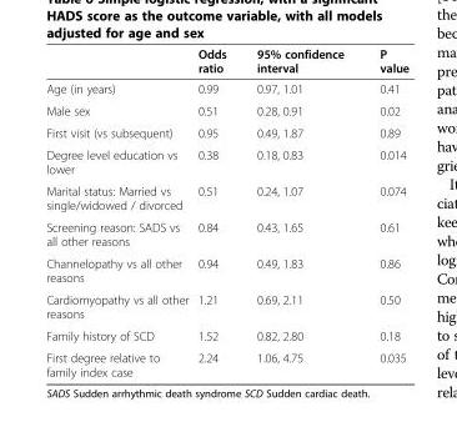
<table><thead><tr><td></td><td>Odds ratio</td><td>95% confidence interval</td><td>P value</td></tr></thead><tbody><tr><td>Age (in years)</td><td>0.99</td><td>0.97, 1.01</td><td>0.41</td></tr><tr><td>Male sex</td><td>0.51</td><td>0.28, 0.91</td><td>0.02</td></tr><tr><td>First visit (vs subsequent)</td><td>0.95</td><td>0.49, 1.87</td><td>0.89</td></tr><tr><td>Degree level education vs lower</td><td>0.38</td><td>0.18, 0.83</td><td>0.014</td></tr><tr><td>Marital status: Married vs single/widowed / divorced</td><td>0.51</td><td>0.24, 1.07</td><td>0.074</td></tr><tr><td>Screening reason: SADS vs all other reasons</td><td>0.84</td><td>0.43, 1.65</td><td>0.61</td></tr><tr><td>Channelopathy vs all other reasons</td><td>0.94</td><td>0.49, 1.83</td><td>0.86</td></tr><tr><td>Cardiomyopathy vs all other reasons</td><td>1.21</td><td>0.69, 2.11</td><td>0.50</td></tr><tr><td>Family history of SCD</td><td>1.52</td><td>0.82, 2.80</td><td>0.18</td></tr><tr><td>First degree relative to family index case</td><td>2.24</td><td>1.06, 4.75</td><td>0.035</td></tr></tbody></table>